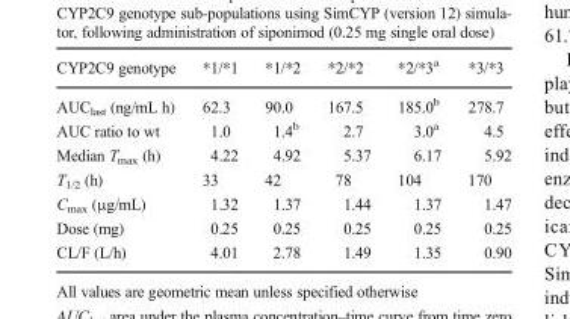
<table><thead><tr><td>CYP2C9 genotype</td><td>*1/*1</td><td>*1/*2</td><td>*2/*2</td><td>*2/*3<sup>a</sup></td><td>*3/*3</td></tr></thead><tbody><tr><td>AUC<sub>last</sub> (ng/mL h)</td><td>62.3</td><td>90.0</td><td>167.5</td><td>185.0<sup>b</sup></td><td>278.7</td></tr><tr><td>AUC ratio to wt</td><td>1.0</td><td>1.4<sup>b</sup></td><td>2.7</td><td>3.0<sup>a</sup></td><td>4.5</td></tr><tr><td>Median T<sub>max</sub> (h)</td><td>4.22</td><td>4.92</td><td>5.37</td><td>6.17</td><td>5.92</td></tr><tr><td>T<sub>1/2</sub> (h)</td><td>33</td><td>42</td><td>78</td><td>104</td><td>170</td></tr><tr><td>C<sub>max</sub> (μg/mL)</td><td>1.32</td><td>1.37</td><td>1.44</td><td>1.37</td><td>1.47</td></tr><tr><td>Dose (mg)</td><td>0.25</td><td>0.25</td><td>0.25</td><td>0.25</td><td>0.25</td></tr><tr><td>CL/F (L/h)</td><td>4.01</td><td>2.78</td><td>1.49</td><td>1.35</td><td>0.90</td></tr></tbody></table>